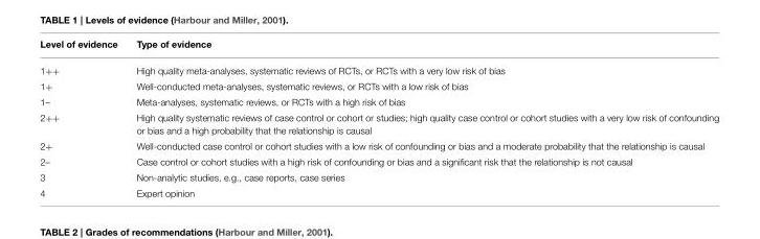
<table><thead><tr><td>Level of evidence</td><td>Type of evidence</td></tr></thead><tbody><tr><td>1++</td><td>High quality meta-analyses, systematic reviews of RCTs, or RCTs with a very low risk of bias</td></tr><tr><td>1+</td><td>Well-conducted meta-analyses, systematic reviews, or RCTs with a low risk of bias</td></tr><tr><td>1–</td><td>Meta-analyses, systematic reviews, or RCTs with a high risk of bias</td></tr><tr><td>2++</td><td>High quality systematic reviews of case control or cohort or studies; high quality case control or cohort studies with a very low risk of confounding or bias and a high probability that the relationship is causal</td></tr><tr><td>2+</td><td>Well-conducted case control or cohort studies with a low risk of confounding or bias and a moderate probability that the relationship is causal</td></tr><tr><td>2–</td><td>Case control or cohort studies with a high risk of confounding or bias and a significant risk that the relationship is not causal</td></tr><tr><td>3</td><td>Non-analytic studies, e.g., case reports, case series</td></tr><tr><td>4</td><td>Expert opinion</td></tr></tbody></table>